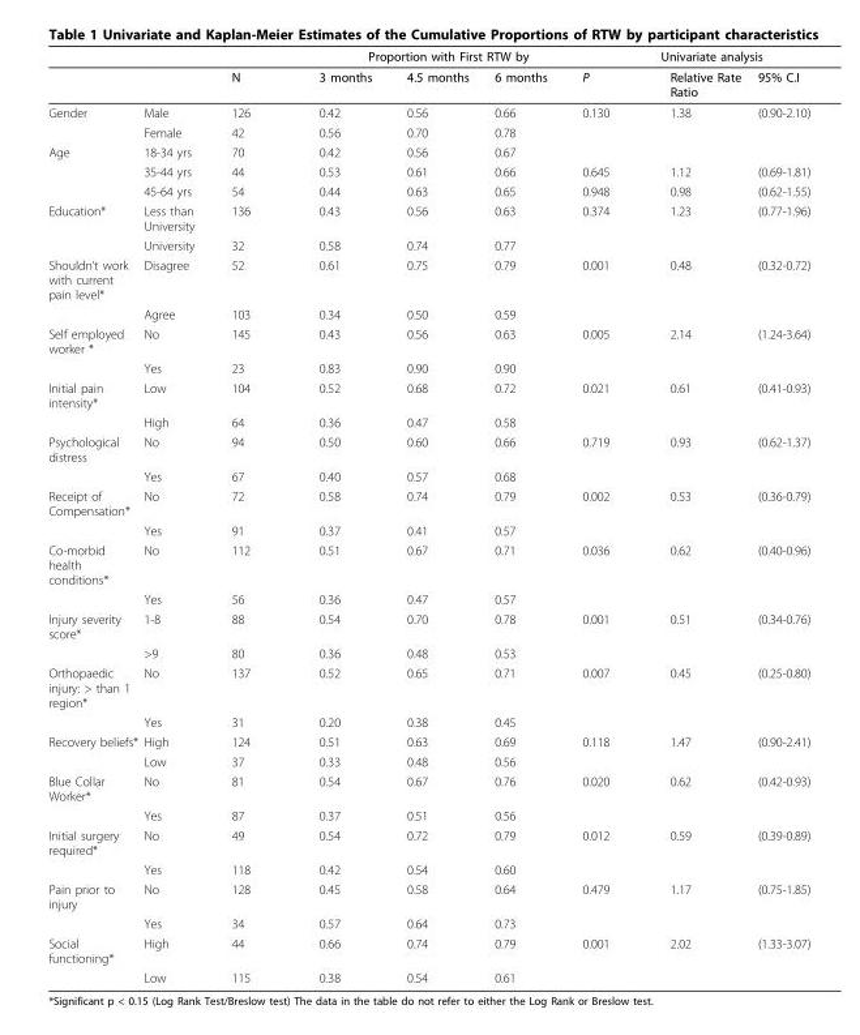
<table><thead><tr><td rowspan="2"></td><td rowspan="2"></td><td rowspan="2">N</td><td colspan="3">Proportion with First RTW by</td><td colspan="3">Univariate analysis</td></tr><tr><td>3 months</td><td>4.5 months</td><td>6 months</td><td>P</td><td>Relative Rate Ratio</td><td>95% C.I</td></tr></thead><tbody><tr><td rowspan="2">Gender</td><td>Male</td><td>126</td><td>0.42</td><td>0.56</td><td>0.66</td><td>0.130</td><td>1.38</td><td>(0.90-2.10)</td></tr><tr><td>Female</td><td>42</td><td>0.56</td><td>0.70</td><td>0.78</td><td></td><td></td><td></td></tr><tr><td rowspan="3">Age</td><td>18-34 yrs</td><td>70</td><td>0.42</td><td>0.56</td><td>0.67</td><td></td><td></td><td></td></tr><tr><td>35-44 yrs</td><td>44</td><td>0.53</td><td>0.61</td><td>0.66</td><td>0.645</td><td>1.12</td><td>(0.69-1.81)</td></tr><tr><td>45-64 yrs</td><td>54</td><td>0.44</td><td>0.63</td><td>0.65</td><td>0.948</td><td>0.98</td><td>(0.62-1.55)</td></tr><tr><td rowspan="2">Education*</td><td>Less than University</td><td>136</td><td>0.43</td><td>0.56</td><td>0.63</td><td>0.374</td><td>1.23</td><td>(0.77-1.96)</td></tr><tr><td>University</td><td>32</td><td>0.58</td><td>0.74</td><td>0.77</td><td></td><td></td><td></td></tr><tr><td rowspan="2">Shouldn’t work with current pain level*</td><td>Disagree</td><td>52</td><td>0.61</td><td>0.75</td><td>0.79</td><td>0.001</td><td>0.48</td><td>(0.32-0.72)</td></tr><tr><td>Agree</td><td>103</td><td>0.34</td><td>0.50</td><td>0.59</td><td></td><td></td><td></td></tr><tr><td rowspan="2">Self employed worker *</td><td>No</td><td>145</td><td>0.43</td><td>0.56</td><td>0.63</td><td>0.005</td><td>2.14</td><td>(1.24-3.64)</td></tr><tr><td>Yes</td><td>23</td><td>0.83</td><td>0.90</td><td>0.90</td><td></td><td></td><td></td></tr><tr><td rowspan="2">Initial pain intensity*</td><td>Low</td><td>104</td><td>0.52</td><td>0.68</td><td>0.72</td><td>0.021</td><td>0.61</td><td>(0.41-0.93)</td></tr><tr><td>High</td><td>64</td><td>0.36</td><td>0.47</td><td>0.58</td><td></td><td></td><td></td></tr><tr><td rowspan="2">Psychological distress</td><td>No</td><td>94</td><td>0.50</td><td>0.60</td><td>0.66</td><td>0.719</td><td>0.93</td><td>(0.62-1.37)</td></tr><tr><td>Yes</td><td>67</td><td>0.40</td><td>0.57</td><td>0.68</td><td></td><td></td><td></td></tr><tr><td rowspan="2">Receipt of Compensation*</td><td>No</td><td>72</td><td>0.58</td><td>0.74</td><td>0.79</td><td>0.002</td><td>0.53</td><td>(0.36-0.79)</td></tr><tr><td>Yes</td><td>91</td><td>0.37</td><td>0.41</td><td>0.57</td><td></td><td></td><td></td></tr><tr><td rowspan="2">Co-morbid health conditions*</td><td>No</td><td>112</td><td>0.51</td><td>0.67</td><td>0.71</td><td>0.036</td><td>0.62</td><td>(0.40-0.96)</td></tr><tr><td>Yes</td><td>56</td><td>0.36</td><td>0.47</td><td>0.57</td><td></td><td></td><td></td></tr><tr><td rowspan="2">Injury severity score*</td><td>1-8</td><td>88</td><td>0.54</td><td>0.70</td><td>0.78</td><td>0.001</td><td>0.51</td><td>(0.34-0.76)</td></tr><tr><td>&gt;9</td><td>80</td><td>0.36</td><td>0.48</td><td>0.53</td><td></td><td></td><td></td></tr><tr><td rowspan="2">Orthopaedic injury: &gt; than 1 region*</td><td>No</td><td>137</td><td>0.52</td><td>0.65</td><td>0.71</td><td>0.007</td><td>0.45</td><td>(0.25-0.80)</td></tr><tr><td>Yes</td><td>31</td><td>0.20</td><td>0.38</td><td>0.45</td><td></td><td></td><td></td></tr><tr><td rowspan="2">Recovery beliefs*</td><td>High</td><td>124</td><td>0.51</td><td>0.63</td><td>0.69</td><td>0.118</td><td>1.47</td><td>(0.90-2.41)</td></tr><tr><td>Low</td><td>37</td><td>0.33</td><td>0.48</td><td>0.56</td><td></td><td></td><td></td></tr><tr><td rowspan="2">Blue Collar Worker*</td><td>No</td><td>81</td><td>0.54</td><td>0.67</td><td>0.76</td><td>0.020</td><td>0.62</td><td>(0.42-0.93)</td></tr><tr><td>Yes</td><td>87</td><td>0.37</td><td>0.51</td><td>0.56</td><td></td><td></td><td></td></tr><tr><td rowspan="2">Initial surgery required*</td><td>No</td><td>49</td><td>0.54</td><td>0.72</td><td>0.79</td><td>0.012</td><td>0.59</td><td>(0.39-0.89)</td></tr><tr><td>Yes</td><td>118</td><td>0.42</td><td>0.54</td><td>0.60</td><td></td><td></td><td></td></tr><tr><td rowspan="2">Pain prior to injury</td><td>No</td><td>128</td><td>0.45</td><td>0.58</td><td>0.64</td><td>0.479</td><td>1.17</td><td>(0.75-1.85)</td></tr><tr><td>Yes</td><td>34</td><td>0.57</td><td>0.64</td><td>0.73</td><td></td><td></td><td></td></tr><tr><td rowspan="2">Social functioning*</td><td>High</td><td>44</td><td>0.66</td><td>0.74</td><td>0.79</td><td>0.001</td><td>2.02</td><td>(1.33-3.07)</td></tr><tr><td>Low</td><td>115</td><td>0.38</td><td>0.54</td><td>0.61</td><td></td><td></td><td></td></tr></tbody></table>